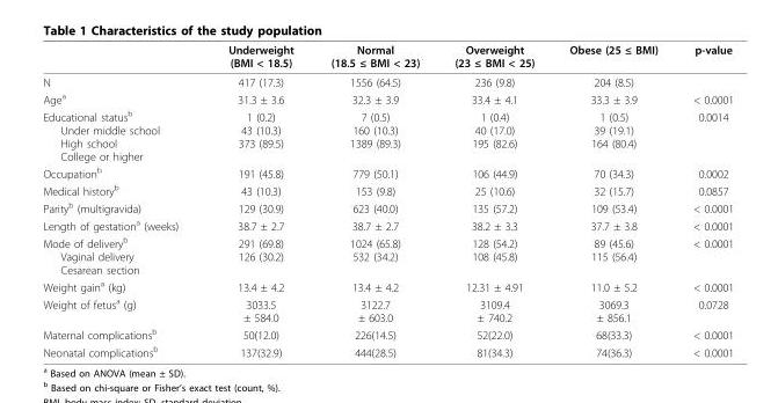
<table><thead><tr><td></td><td>Underweight (BMI &lt; 18.5)</td><td>Normal (18.5 ≤ BMI &lt; 23)</td><td>Overweight (23 ≤ BMI &lt; 25)</td><td>Obese (25 ≤ BMI)</td><td>p-value</td></tr></thead><tbody><tr><td>N</td><td>417 (17.3)</td><td>1556 (64.5)</td><td>236 (9.8)</td><td>204 (8.5)</td><td></td></tr><tr><td>Age<sup>a</sup></td><td>31.3 ± 3.6</td><td>32.3 ± 3.9</td><td>33.4 ± 4.1</td><td>33.3 ± 3.9</td><td>&lt; 0.0001</td></tr><tr><td>Educational status<sup>b</sup> Under middle school High school College or higher</td><td>1 (0.2) 43 (10.3) 373 (89.5)</td><td>7 (0.5) 160 (10.3) 1389 (89.3)</td><td>1 (0.4) 40 (17.0) 195 (82.6)</td><td>1 (0.5) 39 (19.1) 164 (80.4)</td><td>0.0014</td></tr><tr><td>Occupation<sup>b</sup></td><td>191 (45.8)</td><td>779 (50.1)</td><td>106 (44.9)</td><td>70 (34.3)</td><td>0.0002</td></tr><tr><td>Medical history<sup>b</sup></td><td>43 (10.3)</td><td>153 (9.8)</td><td>25 (10.6)</td><td>32 (15.7)</td><td>0.0857</td></tr><tr><td>Parity<sup>b</sup> (multigravida)</td><td>129 (30.9)</td><td>623 (40.0)</td><td>135 (57.2)</td><td>109 (53.4)</td><td>&lt; 0.0001</td></tr><tr><td>Length of gestation<sup>a</sup> (weeks)</td><td>38.7 ± 2.7</td><td>38.7 ± 2.7</td><td>38.2 ± 3.3</td><td>37.7 ± 3.8</td><td>&lt; 0.0001</td></tr><tr><td>Mode of delivery<sup>b</sup> Vaginal delivery Cesarean section</td><td>291 (69.8) 126 (30.2)</td><td>1024 (65.8) 532 (34.2)</td><td>128 (54.2) 108 (45.8)</td><td>89 (45.6) 115 (56.4)</td><td>&lt; 0.0001</td></tr><tr><td>Weight gain<sup>a</sup> (kg)</td><td>13.4 ± 4.2</td><td>13.4 ± 4.2</td><td>12.31 ± 4.91</td><td>11.0 ± 5.2</td><td>&lt; 0.0001</td></tr><tr><td>Weight of fetus<sup>a</sup> (g)</td><td>3033.5 ± 584.0</td><td>3122.7 ± 603.0</td><td>3109.4 ± 740.2</td><td>3069.3 ± 856.1</td><td>0.0728</td></tr><tr><td>Maternal complications<sup>b</sup></td><td>50(12.0)</td><td>226(14.5)</td><td>52(22.0)</td><td>68(33.3)</td><td>&lt; 0.0001</td></tr><tr><td>Neonatal complications<sup>b</sup></td><td>137(32.9)</td><td>444(28.5)</td><td>81(34.3)</td><td>74(36.3)</td><td>&lt; 0.0001</td></tr></tbody></table>